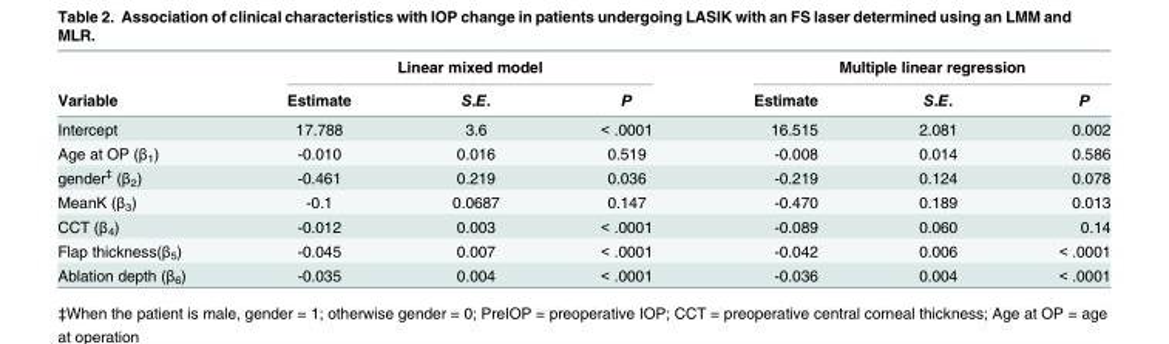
<table><thead><tr><td rowspan="2">Variable</td><td colspan="3">Linear mixed model</td><td colspan="3">Multiple linear regression</td></tr><tr><td>Estimate</td><td>S.E.</td><td>P</td><td>Estimate</td><td>S.E.</td><td>P</td></tr></thead><tbody><tr><td>Intercept</td><td>17.788</td><td>3.6</td><td>&lt; .0001</td><td>16.515</td><td>2.081</td><td>0.002</td></tr><tr><td>Age at OP (β<sub>1</sub>)</td><td>-0.010</td><td>0.016</td><td>0.519</td><td>-0.008</td><td>0.014</td><td>0.586</td></tr><tr><td>gender<sup>‡</sup> (β<sub>2</sub>)</td><td>-0.461</td><td>0.219</td><td>0.036</td><td>-0.219</td><td>0.124</td><td>0.078</td></tr><tr><td>MeanK (β<sub>3</sub>)</td><td>-0.1</td><td>0.0687</td><td>0.147</td><td>-0.470</td><td>0.189</td><td>0.013</td></tr><tr><td>CCT (β<sub>4</sub>)</td><td>-0.012</td><td>0.003</td><td>&lt; .0001</td><td>-0.089</td><td>0.060</td><td>0.14</td></tr><tr><td>Flap thickness(β<sub>5</sub>)</td><td>-0.045</td><td>0.007</td><td>&lt; .0001</td><td>-0.042</td><td>0.006</td><td>&lt; .0001</td></tr><tr><td>Ablation depth (β<sub>6</sub>)</td><td>-0.035</td><td>0.004</td><td>&lt; .0001</td><td>-0.036</td><td>0.004</td><td>&lt; .0001</td></tr></tbody></table>